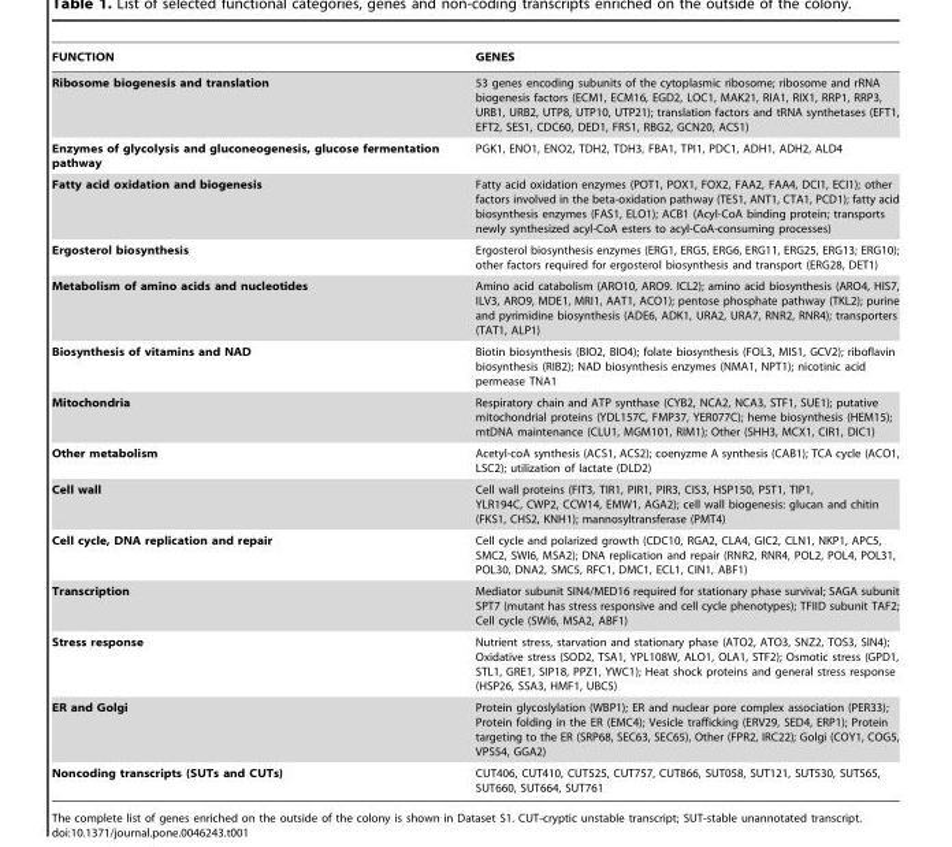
<table><thead><tr><td>FUNCTION</td><td>GENES</td></tr></thead><tbody><tr><td>Ribosome biogenesis and translation</td><td>53 genes encoding subunits of the cytoplasmic ribosome; ribosome and rRNA biogenesis factors (ECM1, ECM16, EGD2, LOC1, MAK21, RIA1, RIX1, RRP1, RRP3, URB1, URB2, UTP8, UTP10, UTP21); translation factors and tRNA synthetases (EFT1, EFT2, SES1, CDC60, DED1, FRS1, RBG2, GCN20, ACS1)</td></tr><tr><td>Enzymes of glycolysis and gluconeogenesis, glucose fermentation pathway</td><td>PGK1, ENO1, ENO2, TDH2, TDH3, FBA1, TPI1, PDC1, ADH1, ADH2, ALD4</td></tr><tr><td>Fatty acid oxidation and biogenesis</td><td>Fatty acid oxidation enzymes (POT1, POX1, FOX2, FAA2, FAA4, DCI1, ECI1); other factors involved in the beta-oxidation pathway (TES1, ANT1, CTA1, PCD1); fatty acid biosynthesis enzymes (FAS1, ELO1); ACB1 (Acyl-CoA binding protein; transports newly synthesized acyl-CoA esters to acyl-CoA-consuming processes)</td></tr><tr><td>Ergosterol biosynthesis</td><td>Ergosterol biosynthesis enzymes (ERG1, ERG5, ERG6, ERG11, ERG25, ERG13; ERG10); other factors required for ergosterol biosynthesis and transport (ERG28, DET1)</td></tr><tr><td>Metabolism of amino acids and nucleotides</td><td>Amino acid catabolism (ARO10, ARO9. ICL2); amino acid biosynthesis (ARO4, HIS7, ILV3, ARO9, MDE1, MRI1, AAT1, ACO1); pentose phosphate pathway (TKL2); purine and pyrimidine biosynthesis (ADE6, ADK1, URA2, URA7, RNR2, RNR4); transporters (TAT1, ALP1)</td></tr><tr><td>Biosynthesis of vitamins and NAD</td><td>Biotin biosynthesis (BIO2, BIO4); folate biosynthesis (FOL3, MIS1, GCV2); riboflavin biosynthesis (RIB2); NAD biosynthesis enzymes (NMA1, NPT1); nicotinic acid permease TNA1</td></tr><tr><td>Mitochondria</td><td>Respiratory chain and ATP synthase (CYB2, NCA2, NCA3, STF1, SUE1); putative mitochondrial proteins (YDL157C, FMP37, YER077C); heme biosynthesis (HEM15); mtDNA maintenance (CLU1, MGM101, RIM1); Other (SHH3, MCX1, CIR1, DIC1)</td></tr><tr><td>Other metabolism</td><td>Acetyl-coA synthesis (ACS1, ACS2); coenyzme A synthesis (CAB1); TCA cycle (ACO1, LSC2); utilization of lactate (DLD2)</td></tr><tr><td>Cell wall</td><td>Cell wall proteins (FIT3, TIR1, PIR1, PIR3, CIS3, HSP150, PST1, TIP1, YLR194C, CWP2, CCW14, EMW1, AGA2); cell wall biogenesis: glucan and chitin (FKS1, CHS2, KNH1); mannosyltransferase (PMT4)</td></tr><tr><td>Cell cycle, DNA replication and repair</td><td>Cell cycle and polarized growth (CDC10, RGA2, CLA4, GIC2, CLN1, NKP1, APC5, SMC2, SWI6, MSA2); DNA replication and repair (RNR2, RNR4, POL2, POL4, POL31, POL30, DNA2, SMC5, RFC1, DMC1, ECL1, CIN1, ABF1)</td></tr><tr><td>Transcription</td><td>Mediator subunit SIN4/MED16 required for stationary phase survival; SAGA subunit SPT7 (mutant has stress responsive and cell cycle phenotypes); TFIID subunit TAF2; Cell cycle (SWI6, MSA2, ABF1)</td></tr><tr><td>Stress response</td><td>Nutrient stress, starvation and stationary phase (ATO2, ATO3, SNZ2, TOS3, SIN4); Oxidative stress (SOD2, TSA1, YPL108W, ALO1, OLA1, STF2); Osmotic stress (GPD1, STL1, GRE1, SIP18, PPZ1, YWC1); Heat shock proteins and general stress response (HSP26, SSA3, HMF1, UBC5)</td></tr><tr><td>ER and Golgi</td><td>Protein glycoslylation (WBP1); ER and nuclear pore complex association (PER33); Protein folding in the ER (EMC4); Vesicle trafficking (ERV29, SED4, ERP1); Protein targeting to the ER (SRP68, SEC63, SEC65), Other (FPR2, IRC22); Golgi (COY1, COG5, VPS54, GGA2)</td></tr><tr><td>Noncoding transcripts (SUTs and CUTs)</td><td>CUT406, CUT410, CUT525, CUT757, CUT866, SUT058, SUT121, SUT530, SUT565, SUT660, SUT664, SUT761</td></tr></tbody></table>